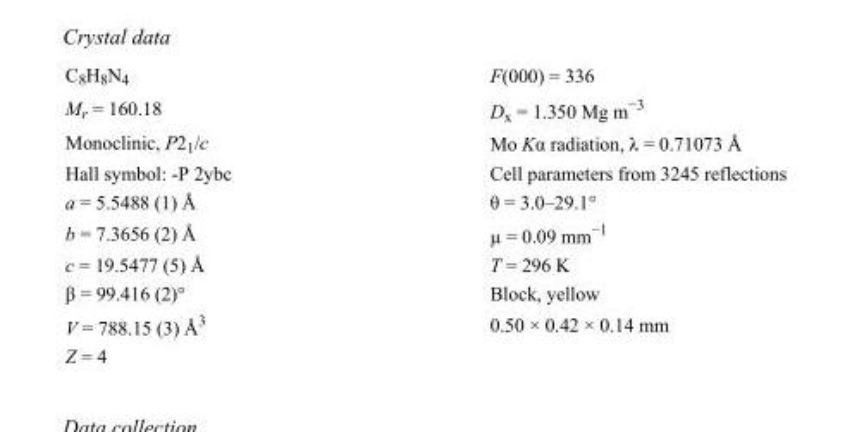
<table><tbody><tr><td>C<sub>8</sub>H<sub>8</sub>N<sub>4</sub></td><td>F(000) = 336</td></tr><tr><td>M<sub>r</sub> = 160.18</td><td>D<sub>x</sub> = 1.350 Mg m<sup>−3</sup></td></tr><tr><td>Monoclinic, P2<sub>1</sub>/c</td><td>Mo Kα radiation, λ = 0.71073 Å</td></tr><tr><td>Hall symbol: -P 2ybc</td><td>Cell parameters from 3245 reflections</td></tr><tr><td>a = 5.5488 (1) Å</td><td>θ = 3.0–29.1°</td></tr><tr><td>b = 7.3656 (2) Å</td><td>µ = 0.09 mm<sup>−1</sup></td></tr><tr><td>c = 19.5477 (5) Å</td><td>T = 296 K</td></tr><tr><td>β = 99.416 (2)°</td><td>Block, yellow</td></tr><tr><td>V = 788.15 (3) Å<sup>3</sup></td><td>0.50 × 0.42 × 0.14 mm</td></tr><tr><td>Z = 4</td><td></td></tr></tbody></table>